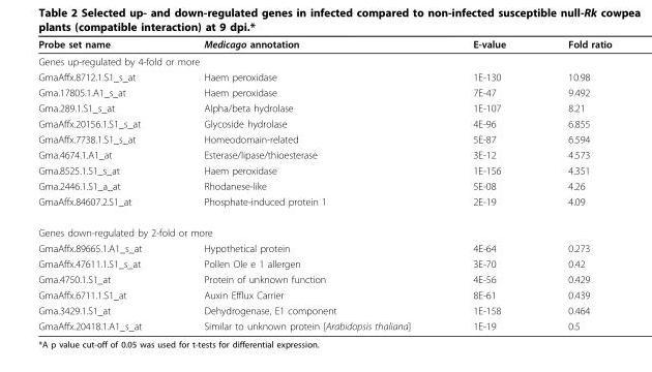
<table><thead><tr><td>Probe set name</td><td>Medicago annotation</td><td>E-value</td><td>Fold ratio</td></tr></thead><tbody><tr><td colspan="4">Genes up-regulated by 4-fold or more</td></tr><tr><td>GmaAffx.8712.1.S1_s_at</td><td>Haem peroxidase</td><td>1E-130</td><td>10.98</td></tr><tr><td>Gma.17805.1.A1_s_at</td><td>Haem peroxidase</td><td>7E-47</td><td>9.492</td></tr><tr><td>Gma.289.1.S1_s_at</td><td>Alpha/beta hydrolase</td><td>1E-107</td><td>8.21</td></tr><tr><td>GmaAffx.20156.1.S1_s_at</td><td>Glycoside hydrolase</td><td>4E-96</td><td>6.855</td></tr><tr><td>GmaAffx.7738.1.S1_s_at</td><td>Homeodomain-related</td><td>5E-87</td><td>6.594</td></tr><tr><td>Gma.4674.1.A1_at</td><td>Esterase/lipase/thioesterase</td><td>3E-12</td><td>4.573</td></tr><tr><td>Gma.8525.1.S1_s_at</td><td>Haem peroxidase</td><td>1E-156</td><td>4.351</td></tr><tr><td>Gma.2446.1.S1_a_at</td><td>Rhodanese-like</td><td>5E-08</td><td>4.26</td></tr><tr><td>GmaAffx.84607.2.S1_at</td><td>Phosphate-induced protein 1</td><td>2E-19</td><td>4.09</td></tr><tr><td colspan="4">Genes down-regulated by 2-fold or more</td></tr><tr><td>GmaAffx.89665.1.A1_s_at</td><td>Hypothetical protein</td><td>4E-64</td><td>0.273</td></tr><tr><td>GmaAffx.47611.1.S1_s_at</td><td>Pollen Ole e 1 allergen</td><td>3E-70</td><td>0.42</td></tr><tr><td>Gma.4750.1.S1_at</td><td>Protein of unknown function</td><td>4E-56</td><td>0.429</td></tr><tr><td>GmaAffx.6711.1.S1_at</td><td>Auxin Efflux Carrier</td><td>8E-61</td><td>0.439</td></tr><tr><td>Gma.3429.1.S1_at</td><td>Dehydrogenase, E1 component</td><td>1E-158</td><td>0.464</td></tr><tr><td>GmaAffx.20418.1.A1_s_at</td><td>Similar to unknown protein [Arabidopsis thaliana]</td><td>1E-19</td><td>0.5</td></tr></tbody></table>